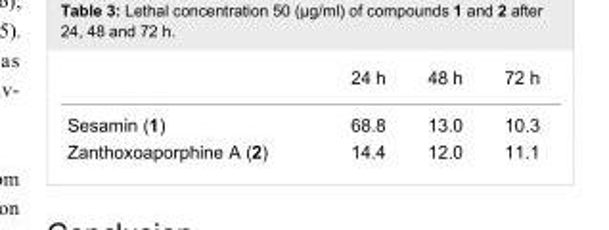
<table><thead><tr><td></td><td>24 h</td><td>48 h</td><td>72 h</td></tr></thead><tbody><tr><td>Sesamin (1)</td><td>68.8</td><td>13.0</td><td>10.3</td></tr><tr><td>Zanthoxoaporphine A (2)</td><td>14.4</td><td>12.0</td><td>11.1</td></tr></tbody></table>